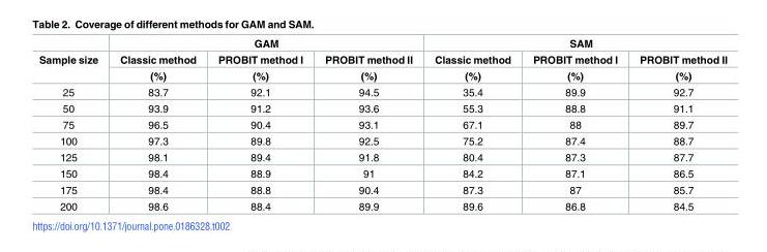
<table><thead><tr><td rowspan="3">Sample size</td><td colspan="3">GAM</td><td colspan="3">SAM</td></tr><tr><td rowspan="2">Classic method (%)</td><td rowspan="2">PROBIT method I (%)</td><td rowspan="2">PROBIT method II (%)</td><td rowspan="2">Classic method (%)</td><td rowspan="2">PROBIT method I (%)</td><td rowspan="2">PROBIT method II (%)</td></tr><tr></tr></thead><tbody><tr><td>25</td><td>83.7</td><td>92.1</td><td>94.5</td><td>35.4</td><td>89.9</td><td>92.7</td></tr><tr><td>50</td><td>93.9</td><td>91.2</td><td>93.6</td><td>55.3</td><td>88.8</td><td>91.1</td></tr><tr><td>75</td><td>96.5</td><td>90.4</td><td>93.1</td><td>67.1</td><td>88</td><td>89.7</td></tr><tr><td>100</td><td>97.3</td><td>89.8</td><td>92.5</td><td>75.2</td><td>87.4</td><td>88.7</td></tr><tr><td>125</td><td>98.1</td><td>89.4</td><td>91.8</td><td>80.4</td><td>87.3</td><td>87.7</td></tr><tr><td>150</td><td>98.4</td><td>88.9</td><td>91</td><td>84.2</td><td>87.1</td><td>86.5</td></tr><tr><td>175</td><td>98.4</td><td>88.8</td><td>90.4</td><td>87.3</td><td>87</td><td>85.7</td></tr><tr><td>200</td><td>98.6</td><td>88.4</td><td>89.9</td><td>89.6</td><td>86.8</td><td>84.5</td></tr></tbody></table>